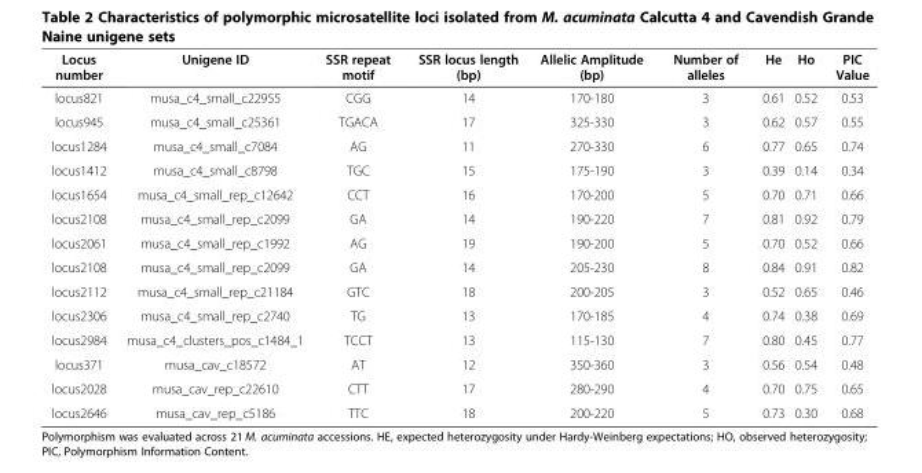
<table><thead><tr><td>Locus number</td><td>Unigene ID</td><td>SSR repeat motif</td><td>SSR locus length (bp)</td><td>Allelic Amplitude (bp)</td><td>Number of alleles</td><td>He</td><td>Ho</td><td>PIC Value</td></tr></thead><tbody><tr><td>locus821</td><td>musa_c4_small_c22955</td><td>CGG</td><td>14</td><td>170-180</td><td>3</td><td>0.61</td><td>0.52</td><td>0.53</td></tr><tr><td>locus945</td><td>musa_c4_small_c25361</td><td>TGACA</td><td>17</td><td>325-330</td><td>3</td><td>0.62</td><td>0.57</td><td>0.55</td></tr><tr><td>locus1284</td><td>musa_c4_small_c7084</td><td>AG</td><td>11</td><td>270-330</td><td>6</td><td>0.77</td><td>0.65</td><td>0.74</td></tr><tr><td>locus1412</td><td>musa_c4_small_c8798</td><td>TGC</td><td>15</td><td>175-190</td><td>3</td><td>0.39</td><td>0.14</td><td>0.34</td></tr><tr><td>locus1654</td><td>musa_c4_small_rep_c12642</td><td>CCT</td><td>16</td><td>170-200</td><td>5</td><td>0.70</td><td>0.71</td><td>0.66</td></tr><tr><td>locus2108</td><td>musa_c4_small_rep_c2099</td><td>GA</td><td>14</td><td>190-220</td><td>7</td><td>0.81</td><td>0.92</td><td>0.79</td></tr><tr><td>locus2061</td><td>musa_c4_small_rep_c1992</td><td>AG</td><td>19</td><td>190-200</td><td>5</td><td>0.70</td><td>0.52</td><td>0.66</td></tr><tr><td>locus2108</td><td>musa_c4_small_rep_c2099</td><td>GA</td><td>14</td><td>205-230</td><td>8</td><td>0.84</td><td>0.91</td><td>0.82</td></tr><tr><td>locus2112</td><td>musa_c4_small_rep_c21184</td><td>GTC</td><td>18</td><td>200-205</td><td>3</td><td>0.52</td><td>0.65</td><td>0.46</td></tr><tr><td>locus2306</td><td>musa_c4_small_rep_c2740</td><td>TG</td><td>13</td><td>170-185</td><td>4</td><td>0.74</td><td>0.38</td><td>0.69</td></tr><tr><td>locus2984</td><td>musa_c4_clusters_pos_c1484_1</td><td>TCCT</td><td>13</td><td>115-130</td><td>7</td><td>0.80</td><td>0.45</td><td>0.77</td></tr><tr><td>locus371</td><td>musa_cav_c18572</td><td>AT</td><td>12</td><td>350-360</td><td>3</td><td>0.56</td><td>0.54</td><td>0.48</td></tr><tr><td>locus2028</td><td>musa_cav_rep_c22610</td><td>CTT</td><td>17</td><td>280-290</td><td>4</td><td>0.70</td><td>0.75</td><td>0.65</td></tr><tr><td>locus2646</td><td>musa_cav_rep_c5186</td><td>TTC</td><td>18</td><td>200-220</td><td>5</td><td>0.73</td><td>0.30</td><td>0.68</td></tr></tbody></table>